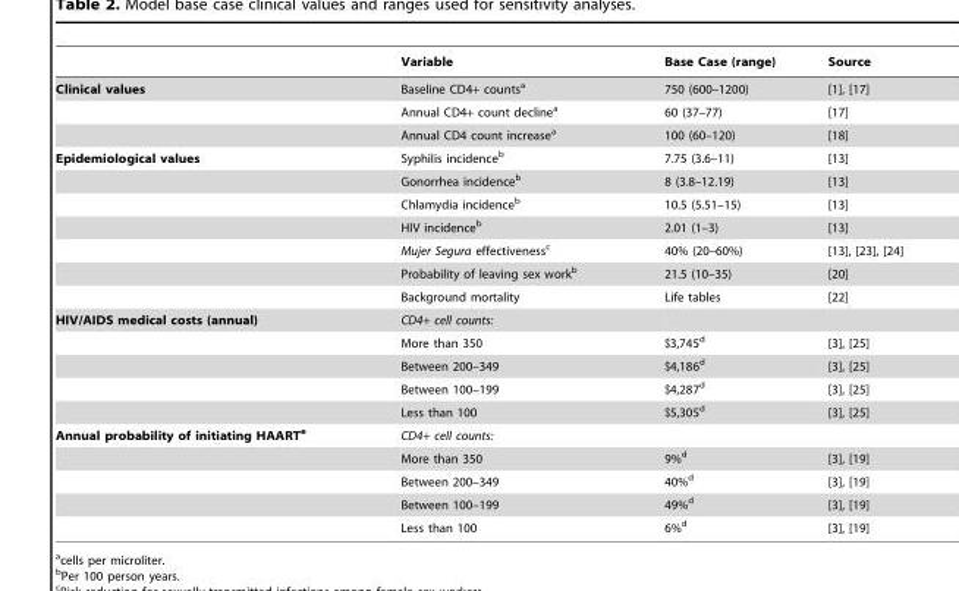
<table><thead><tr><td></td><td>Variable</td><td>Base Case (range)</td><td>Source</td></tr></thead><tbody><tr><td rowspan="3">Clinical values</td><td>Baseline CD4+ counts<sup>a</sup></td><td>750 (600–1200)</td><td>[1], [17]</td></tr><tr><td>Annual CD4+ count decline<sup>a</sup></td><td>60 (37–77)</td><td>[17]</td></tr><tr><td>Annual CD4 count increase<sup>a</sup></td><td>100 (60–120)</td><td>[18]</td></tr><tr><td rowspan="7">Epidemiological values</td><td>Syphilis incidence<sup>b</sup></td><td>7.75 (3.6–11)</td><td>[13]</td></tr><tr><td>Gonorrhea incidence<sup>b</sup></td><td>8 (3.8–12.19)</td><td>[13]</td></tr><tr><td>Chlamydia incidence<sup>b</sup></td><td>10.5 (5.51–15)</td><td>[13]</td></tr><tr><td>HIV incidence<sup>b</sup></td><td>2.01 (1–3)</td><td>[13]</td></tr><tr><td>Mujer Segura effectiveness<sup>c</sup></td><td>40% (20–60%)</td><td>[13], [23], [24]</td></tr><tr><td>Probability of leaving sex work<sup>b</sup></td><td>21.5 (10–35)</td><td>[20]</td></tr><tr><td>Background mortality</td><td>Life tables</td><td>[22]</td></tr><tr><td rowspan="5">HIV/AIDS medical costs (annual)</td><td>CD4+ cell counts:</td><td></td><td></td></tr><tr><td>More than 350</td><td>$3,745<sup>d</sup></td><td>[3], [25]</td></tr><tr><td>Between 200–349</td><td>$4,186<sup>d</sup></td><td>[3], [25]</td></tr><tr><td>Between 100–199</td><td>$4,287<sup>d</sup></td><td>[3], [25]</td></tr><tr><td>Less than 100</td><td>$5,305<sup>d</sup></td><td>[3], [25]</td></tr><tr><td rowspan="5">Annual probability of initiating HAARTe</td><td>CD4+ cell counts:</td><td></td><td></td></tr><tr><td>More than 350</td><td>9%<sup>d</sup></td><td>[3], [19]</td></tr><tr><td>Between 200–349</td><td>40%<sup>d</sup></td><td>[3], [19]</td></tr><tr><td>Between 100–199</td><td>49%<sup>d</sup></td><td>[3], [19]</td></tr><tr><td>Less than 100</td><td>6%<sup>d</sup></td><td>[3], [19]</td></tr></tbody></table>